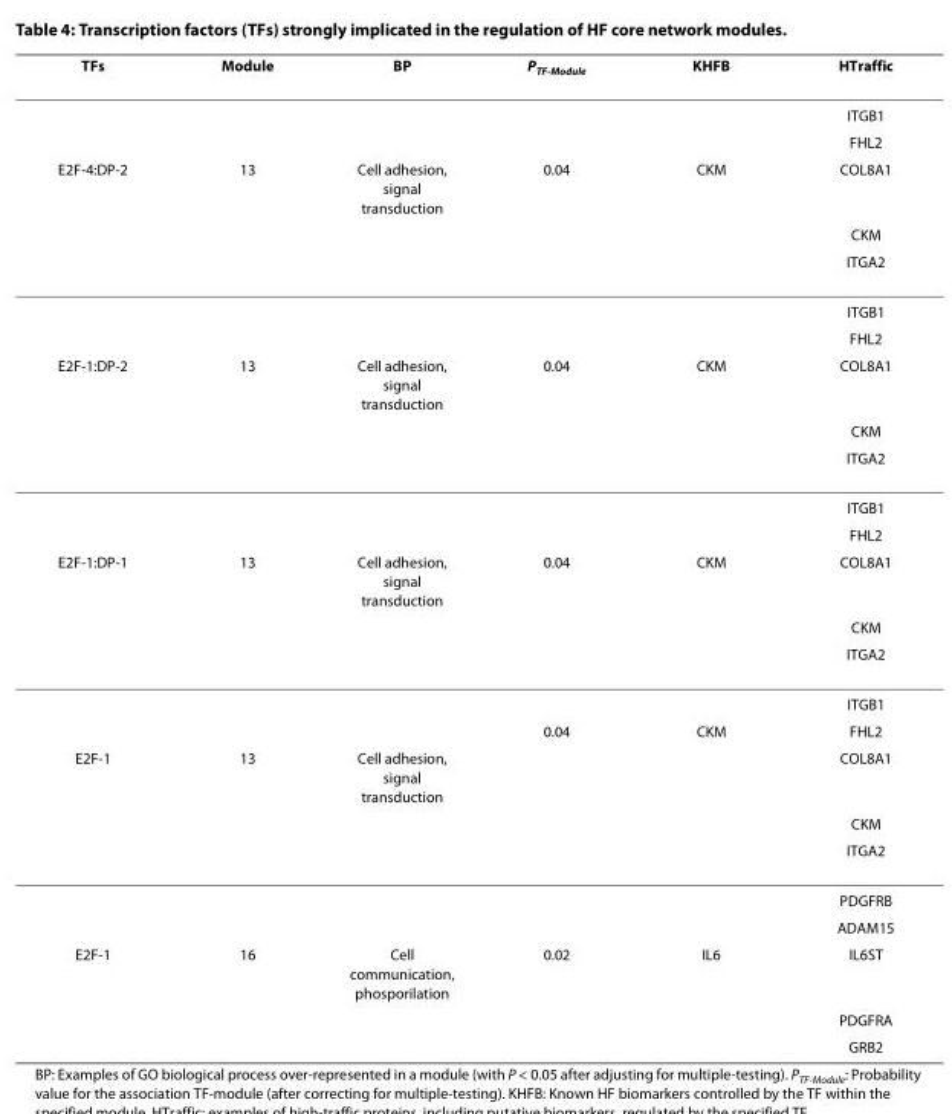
<table><thead><tr><td>TFs</td><td>Module</td><td>BP</td><td>P<sub>TF-Module</sub></td><td>KHFB</td><td>HTraffic</td></tr></thead><tbody><tr><td></td><td></td><td></td><td></td><td></td><td>ITGB1</td></tr><tr><td></td><td></td><td></td><td></td><td></td><td>FHL2</td></tr><tr><td rowspan="5">E2F-4:DP-2</td><td>13</td><td>Cell adhesion, signal transduction</td><td>0.04</td><td>CKM</td><td>COL8A1</td></tr><tr><td></td><td></td><td></td><td></td><td>CKM</td></tr><tr><td></td><td></td><td></td><td></td><td>ITGA2</td></tr><tr><td></td><td></td><td></td><td></td><td>ITGB1</td></tr><tr><td></td><td></td><td></td><td></td><td>FHL2</td></tr><tr><td rowspan="5">E2F-1:DP-2</td><td>13</td><td>Cell adhesion, signal transduction</td><td>0.04</td><td>CKM</td><td>COL8A1</td></tr><tr><td></td><td></td><td></td><td></td><td>CKM</td></tr><tr><td></td><td></td><td></td><td></td><td>ITGA2</td></tr><tr><td></td><td></td><td></td><td></td><td>ITGB1</td></tr><tr><td></td><td></td><td></td><td></td><td>FHL2</td></tr><tr><td rowspan="5">E2F-1:DP-1</td><td>13</td><td>Cell adhesion, signal transduction</td><td>0.04</td><td>CKM</td><td>COL8A1</td></tr><tr><td></td><td></td><td></td><td></td><td>CKM</td></tr><tr><td></td><td></td><td></td><td></td><td>ITGA2</td></tr><tr><td></td><td></td><td></td><td></td><td>ITGB1</td></tr><tr><td></td><td></td><td>0.04</td><td>CKM</td><td>FHL2</td></tr><tr><td rowspan="5">E2F-1</td><td>13</td><td>Cell adhesion, signal transduction</td><td></td><td></td><td>COL8A1</td></tr><tr><td></td><td></td><td></td><td></td><td>CKM</td></tr><tr><td></td><td></td><td></td><td></td><td>ITGA2</td></tr><tr><td></td><td></td><td></td><td></td><td>PDGFRB</td></tr><tr><td></td><td></td><td></td><td></td><td>ADAM15</td></tr><tr><td rowspan="3">E2F-1</td><td>16</td><td>Cell communication, phosporilation</td><td>0.02</td><td>IL6</td><td>IL6ST</td></tr><tr><td></td><td></td><td></td><td></td><td>PDGFRA</td></tr><tr><td></td><td></td><td></td><td></td><td>GRB2</td></tr></tbody></table>